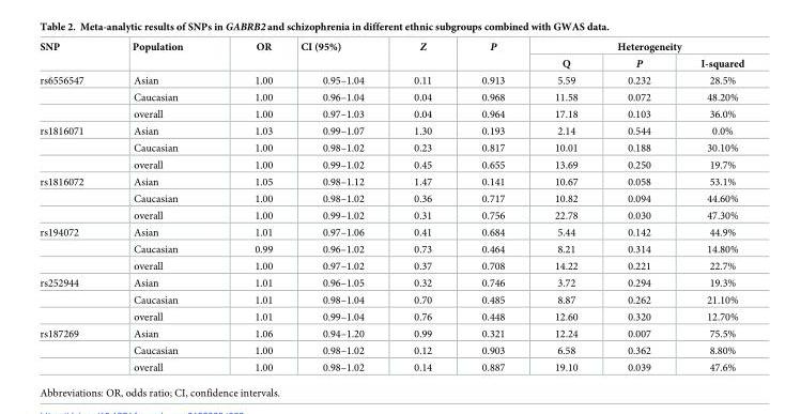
<table><thead><tr><td rowspan="2">SNP</td><td rowspan="2">Population</td><td rowspan="2">OR</td><td rowspan="2">CI (95%)</td><td rowspan="2">Z</td><td rowspan="2">P</td><td colspan="3">Heterogeneity</td></tr><tr><td>Q</td><td>P</td><td>I-squared</td></tr></thead><tbody><tr><td rowspan="3">rs6556547</td><td>Asian</td><td>1.00</td><td>0.95–1.04</td><td>0.11</td><td>0.913</td><td>5.59</td><td>0.232</td><td>28.5%</td></tr><tr><td>Caucasian</td><td>1.00</td><td>0.96–1.04</td><td>0.04</td><td>0.968</td><td>11.58</td><td>0.072</td><td>48.20%</td></tr><tr><td>overall</td><td>1.00</td><td>0.97–1.03</td><td>0.04</td><td>0.964</td><td>17.18</td><td>0.103</td><td>36.0%</td></tr><tr><td rowspan="3">rs1816071</td><td>Asian</td><td>1.03</td><td>0.99–1.07</td><td>1.30</td><td>0.193</td><td>2.14</td><td>0.544</td><td>0.0%</td></tr><tr><td>Caucasian</td><td>1.00</td><td>0.98–1.02</td><td>0.23</td><td>0.817</td><td>10.01</td><td>0.188</td><td>30.10%</td></tr><tr><td>overall</td><td>1.00</td><td>0.99–1.02</td><td>0.45</td><td>0.655</td><td>13.69</td><td>0.250</td><td>19.7%</td></tr><tr><td rowspan="3">rs1816072</td><td>Asian</td><td>1.05</td><td>0.98–1.12</td><td>1.47</td><td>0.141</td><td>10.67</td><td>0.058</td><td>53.1%</td></tr><tr><td>Caucasian</td><td>1.00</td><td>0.98–1.02</td><td>0.36</td><td>0.717</td><td>10.82</td><td>0.094</td><td>44.60%</td></tr><tr><td>overall</td><td>1.00</td><td>0.99–1.02</td><td>0.31</td><td>0.756</td><td>22.78</td><td>0.030</td><td>47.30%</td></tr><tr><td rowspan="3">rs194072</td><td>Asian</td><td>1.01</td><td>0.97–1.06</td><td>0.41</td><td>0.684</td><td>5.44</td><td>0.142</td><td>44.9%</td></tr><tr><td>Caucasian</td><td>0.99</td><td>0.96–1.02</td><td>0.73</td><td>0.464</td><td>8.21</td><td>0.314</td><td>14.80%</td></tr><tr><td>overall</td><td>1.00</td><td>0.97–1.02</td><td>0.37</td><td>0.708</td><td>14.22</td><td>0.221</td><td>22.7%</td></tr><tr><td rowspan="3">rs252944</td><td>Asian</td><td>1.01</td><td>0.96–1.05</td><td>0.32</td><td>0.746</td><td>3.72</td><td>0.294</td><td>19.3%</td></tr><tr><td>Caucasian</td><td>1.01</td><td>0.98–1.04</td><td>0.70</td><td>0.485</td><td>8.87</td><td>0.262</td><td>21.10%</td></tr><tr><td>overall</td><td>1.01</td><td>0.99–1.04</td><td>0.76</td><td>0.448</td><td>12.60</td><td>0.320</td><td>12.70%</td></tr><tr><td rowspan="3">rs187269</td><td>Asian</td><td>1.06</td><td>0.94–1.20</td><td>0.99</td><td>0.321</td><td>12.24</td><td>0.007</td><td>75.5%</td></tr><tr><td>Caucasian</td><td>1.00</td><td>0.98–1.02</td><td>0.12</td><td>0.903</td><td>6.58</td><td>0.362</td><td>8.80%</td></tr><tr><td>overall</td><td>1.00</td><td>0.98–1.02</td><td>0.14</td><td>0.887</td><td>19.10</td><td>0.039</td><td>47.6%</td></tr></tbody></table>